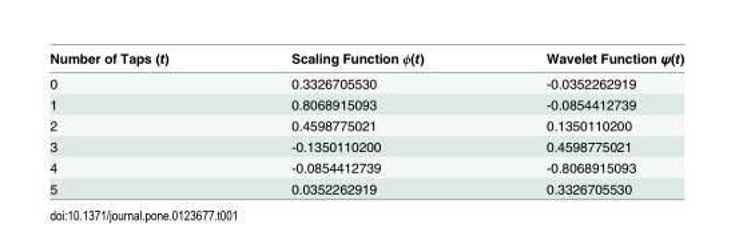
<table><thead><tr><td>Number of Taps (t)</td><td>Scaling Function ϕ(t)</td><td>Wavelet Function ψ(t)</td></tr></thead><tbody><tr><td>0</td><td>0.3326705530</td><td>-0.0352262919</td></tr><tr><td>1</td><td>0.8068915093</td><td>-0.0854412739</td></tr><tr><td>2</td><td>0.4598775021</td><td>0.1350110200</td></tr><tr><td>3</td><td>-0.1350110200</td><td>0.4598775021</td></tr><tr><td>4</td><td>-0.0854412739</td><td>-0.8068915093</td></tr><tr><td>5</td><td>0.0352262919</td><td>0.3326705530</td></tr></tbody></table>